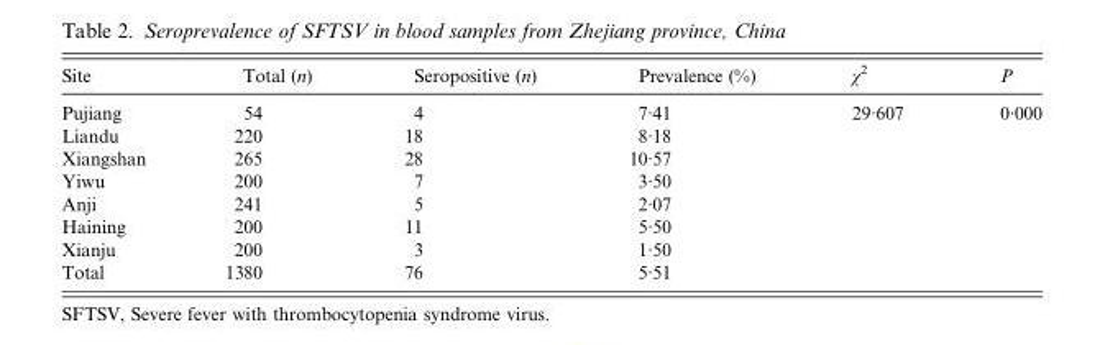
<table><thead><tr><td>Site</td><td>Total (n)</td><td>Seropositive (n)</td><td>Prevalence (%)</td><td>χ<sup>2</sup></td><td>P</td></tr></thead><tbody><tr><td>Pujiang</td><td>54</td><td>4</td><td>7·41</td><td rowspan="8">29·607</td><td rowspan="8">0·000</td></tr><tr><td>Liandu</td><td>220</td><td>18</td><td>8·18</td></tr><tr><td>Xiangshan</td><td>265</td><td>28</td><td>10·57</td></tr><tr><td>Yiwu</td><td>200</td><td>7</td><td>3·50</td></tr><tr><td>Anji</td><td>241</td><td>5</td><td>2·07</td></tr><tr><td>Haining</td><td>200</td><td>11</td><td>5·50</td></tr><tr><td>Xianju</td><td>200</td><td>3</td><td>1·50</td></tr><tr><td>Total</td><td>1380</td><td>76</td><td>5·51</td></tr></tbody></table>